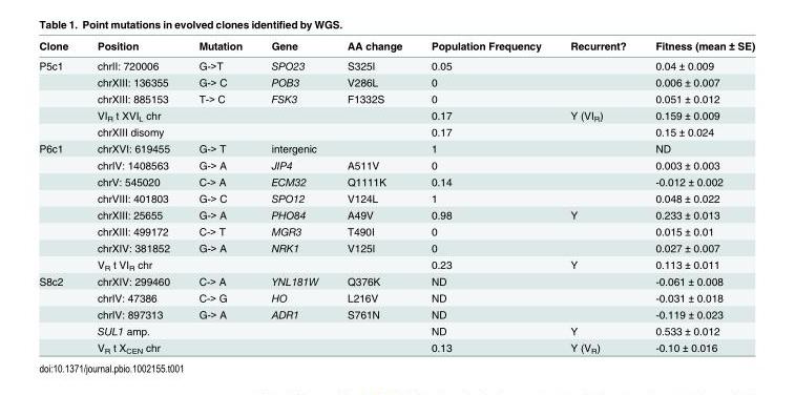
<table><thead><tr><td>Clone</td><td>Position</td><td>Mutation</td><td>Gene</td><td>AA change</td><td>Population Frequency</td><td>Recurrent?</td><td>Fitness (mean ± SE)</td></tr></thead><tbody><tr><td rowspan="5">P5c1</td><td>chrII: 720006</td><td>G-&gt;T</td><td>SPO23</td><td>S325I</td><td>0.05</td><td></td><td>0.04 ± 0.009</td></tr><tr><td>chrXIII: 136355</td><td>G-&gt; C</td><td>POB3</td><td>V286L</td><td>0</td><td></td><td>0.006 ± 0.007</td></tr><tr><td>chrXIII: 885153</td><td>T-&gt; C</td><td>FSK3</td><td>F1332S</td><td>0</td><td></td><td>0.051 ± 0.012</td></tr><tr><td>VI<sub>R</sub> t XVI<sub>L</sub> chr</td><td></td><td></td><td></td><td>0.17</td><td>Y (VI<sub>R</sub>)</td><td>0.159 ± 0.009</td></tr><tr><td>chrXIII disomy</td><td></td><td></td><td></td><td>0.17</td><td></td><td>0.15 ± 0.024</td></tr><tr><td rowspan="8">P6c1</td><td>chrXVI: 619455</td><td>G-&gt; T</td><td>intergenic</td><td></td><td>1</td><td></td><td>ND</td></tr><tr><td>chrIV: 1408563</td><td>G-&gt; A</td><td>JIP4</td><td>A511V</td><td>0</td><td></td><td>0.003 ± 0.003</td></tr><tr><td>chrV: 545020</td><td>C-&gt; A</td><td>ECM32</td><td>Q1111K</td><td>0.14</td><td></td><td>-0.012 ± 0.002</td></tr><tr><td>chrVIII: 401803</td><td>G-&gt; C</td><td>SPO12</td><td>V124L</td><td>1</td><td></td><td>0.048 ± 0.022</td></tr><tr><td>chrXIII: 25655</td><td>G-&gt; A</td><td>PHO84</td><td>A49V</td><td>0.98</td><td>Y</td><td>0.233 ± 0.013</td></tr><tr><td>chrXIII: 499172</td><td>C-&gt; T</td><td>MGR3</td><td>T490I</td><td>0</td><td></td><td>0.015 ± 0.01</td></tr><tr><td>chrXIV: 381852</td><td>G-&gt; A</td><td>NRK1</td><td>V125I</td><td>0</td><td></td><td>0.027 ± 0.007</td></tr><tr><td>V<sub>R</sub> t VI<sub>R</sub> chr</td><td></td><td></td><td></td><td>0.23</td><td>Y</td><td>0.113 ± 0.011</td></tr><tr><td rowspan="5">S8c2</td><td>chrXIV: 299460</td><td>C-&gt; A</td><td>YNL181W</td><td>Q376K</td><td>ND</td><td></td><td>-0.061 ± 0.008</td></tr><tr><td>chrIV: 47386</td><td>C-&gt; G</td><td>HO</td><td>L216V</td><td>ND</td><td></td><td>-0.031 ± 0.018</td></tr><tr><td>chrIV: 897313</td><td>G-&gt; A</td><td>ADR1</td><td>S761N</td><td>ND</td><td></td><td>-0.119 ± 0.023</td></tr><tr><td>SUL1 amp.</td><td></td><td></td><td></td><td>ND</td><td>Y</td><td>0.533 ± 0.012</td></tr><tr><td>V<sub>R</sub> t X<sub>CEN</sub> chr</td><td></td><td></td><td></td><td>0.13</td><td>Y (V<sub>R</sub>)</td><td>-0.10 ± 0.016</td></tr></tbody></table>